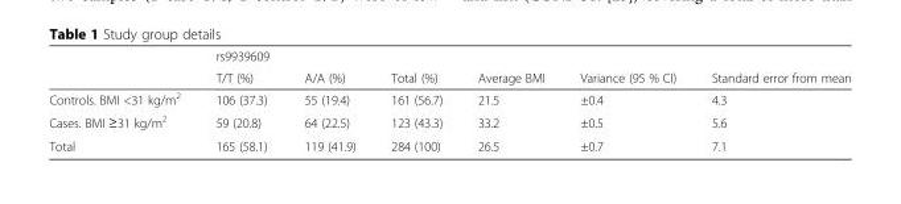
<table><thead><tr><td rowspan="2"></td><td rowspan="2">rs9939609 T/T (%)</td><td rowspan="2">A/A (%)</td><td rowspan="2">Total (%)</td><td rowspan="2">Average BMI</td><td rowspan="2">Variance (95 % CI)</td><td rowspan="2">Standard error from mean</td></tr><tr></tr></thead><tbody><tr><td>Controls. BMI &lt;31 kg/m<sup>2</sup></td><td>106 (37.3)</td><td>55 (19.4)</td><td>161 (56.7)</td><td>21.5</td><td>±0.4</td><td>4.3</td></tr><tr><td>Cases. BMI ≥31 kg/m<sup>2</sup></td><td>59 (20.8)</td><td>64 (22.5)</td><td>123 (43.3)</td><td>33.2</td><td>±0.5</td><td>5.6</td></tr><tr><td>Total</td><td>165 (58.1)</td><td>119 (41.9)</td><td>284 (100)</td><td>26.5</td><td>±0.7</td><td>7.1</td></tr></tbody></table>